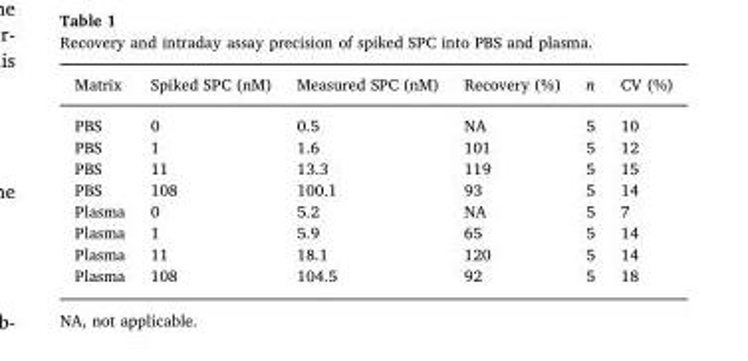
<table><thead><tr><td>Matrix</td><td>Spiked SPC (nM)</td><td>Measured SPC (nM)</td><td>Recovery (%)</td><td>n</td><td>CV (%)</td></tr></thead><tbody><tr><td>PBS</td><td>0</td><td>0.5</td><td>NA</td><td>5</td><td>10</td></tr><tr><td>PBS</td><td>1</td><td>1.6</td><td>101</td><td>5</td><td>12</td></tr><tr><td>PBS</td><td>11</td><td>13.3</td><td>119</td><td>5</td><td>15</td></tr><tr><td>PBS</td><td>108</td><td>100.1</td><td>93</td><td>5</td><td>14</td></tr><tr><td>Plasma</td><td>0</td><td>5.2</td><td>NA</td><td>5</td><td>7</td></tr><tr><td>Plasma</td><td>1</td><td>5.9</td><td>65</td><td>5</td><td>14</td></tr><tr><td>Plasma</td><td>11</td><td>18.1</td><td>120</td><td>5</td><td>14</td></tr><tr><td>Plasma</td><td>108</td><td>104.5</td><td>92</td><td>5</td><td>18</td></tr></tbody></table>